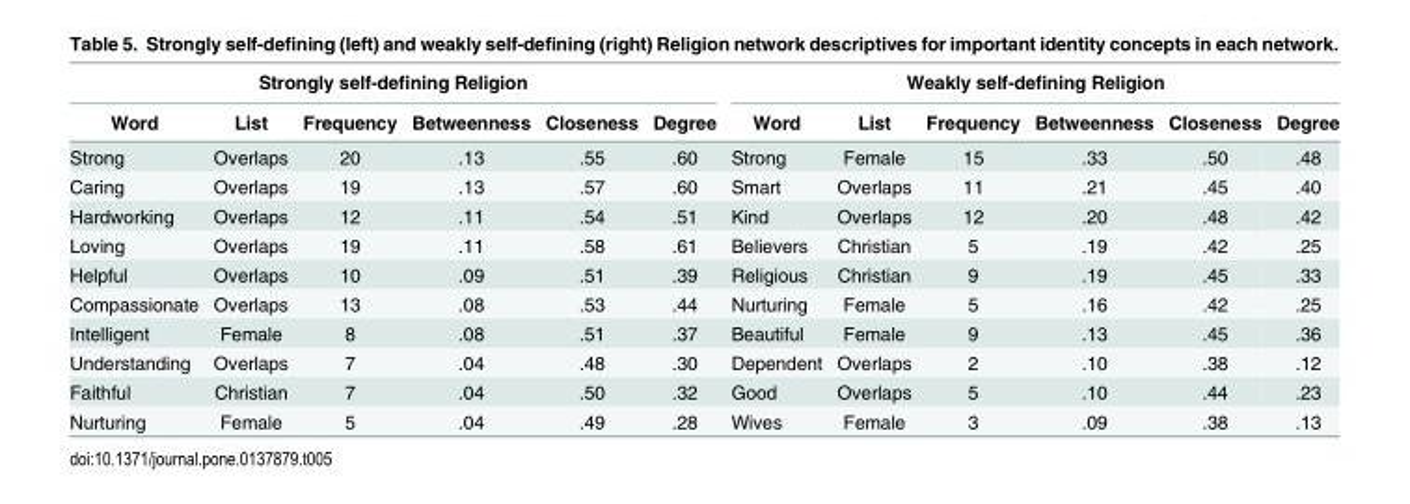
<table><thead><tr><td colspan="6">Strongly self-defining Religion</td><td colspan="6">Weakly self-defining Religion</td></tr><tr><td>Word</td><td>List</td><td>Frequency</td><td>Betweenness</td><td>Closeness</td><td>Degree</td><td>Word</td><td>List</td><td>Frequency</td><td>Betweenness</td><td>Closeness</td><td>Degree</td></tr></thead><tbody><tr><td>Strong</td><td>Overlaps</td><td>20</td><td>.13</td><td>.55</td><td>.60</td><td>Strong</td><td>Female</td><td>15</td><td>.33</td><td>.50</td><td>.48</td></tr><tr><td>Caring</td><td>Overlaps</td><td>19</td><td>.13</td><td>.57</td><td>.60</td><td>Smart</td><td>Overlaps</td><td>11</td><td>.21</td><td>.45</td><td>.40</td></tr><tr><td>Hardworking</td><td>Overlaps</td><td>12</td><td>.11</td><td>.54</td><td>.51</td><td>Kind</td><td>Overlaps</td><td>12</td><td>.20</td><td>.48</td><td>.42</td></tr><tr><td>Loving</td><td>Overlaps</td><td>19</td><td>.11</td><td>.58</td><td>.61</td><td>Believers</td><td>Christian</td><td>5</td><td>.19</td><td>.42</td><td>.25</td></tr><tr><td>Helpful</td><td>Overlaps</td><td>10</td><td>.09</td><td>.51</td><td>.39</td><td>Religious</td><td>Christian</td><td>9</td><td>.19</td><td>.45</td><td>.33</td></tr><tr><td>Compassionate</td><td>Overlaps</td><td>13</td><td>.08</td><td>.53</td><td>.44</td><td>Nurturing</td><td>Female</td><td>5</td><td>.16</td><td>.42</td><td>.25</td></tr><tr><td>Intelligent</td><td>Female</td><td>8</td><td>.08</td><td>.51</td><td>.37</td><td>Beautiful</td><td>Female</td><td>9</td><td>.13</td><td>.45</td><td>.36</td></tr><tr><td>Understanding</td><td>Overlaps</td><td>7</td><td>.04</td><td>.48</td><td>.30</td><td>Dependent</td><td>Overlaps</td><td>2</td><td>.10</td><td>.38</td><td>.12</td></tr><tr><td>Faithful</td><td>Christian</td><td>7</td><td>.04</td><td>.50</td><td>.32</td><td>Good</td><td>Overlaps</td><td>5</td><td>.10</td><td>.44</td><td>.23</td></tr><tr><td>Nurturing</td><td>Female</td><td>5</td><td>.04</td><td>.49</td><td>.28</td><td>Wives</td><td>Female</td><td>3</td><td>.09</td><td>.38</td><td>.13</td></tr></tbody></table>